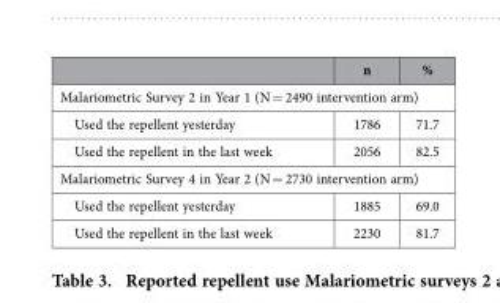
<table><thead><tr><td></td><td>n</td><td>%</td></tr></thead><tbody><tr><td colspan="3">Malariometric Survey 2 in Year 1 (N = 2490 intervention arm)</td></tr><tr><td>Used the repellent yesterday</td><td>1786</td><td>71.7</td></tr><tr><td>Used the repellent in the last week</td><td>2056</td><td>82.5</td></tr><tr><td colspan="3">Malariometric Survey 4 in Year 2 (N = 2730 intervention arm)</td></tr><tr><td>Used the repellent yesterday</td><td>1885</td><td>69.0</td></tr><tr><td>Used the repellent in the last week</td><td>2230</td><td>81.7</td></tr></tbody></table>